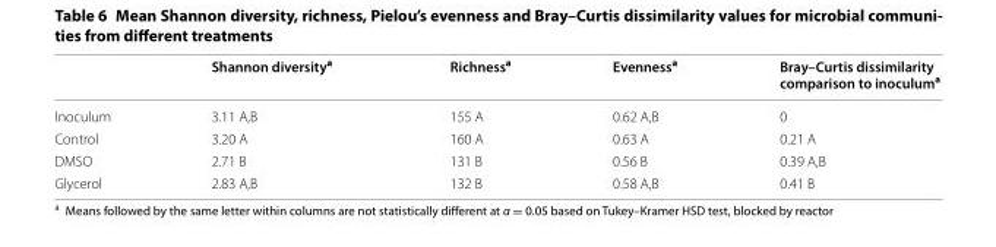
<table><thead><tr><td></td><td>Shannon diversity<sup>a</sup></td><td>Richness<sup>a</sup></td><td>Evenness<sup>a</sup></td><td>Bray–Curtis dissimilarity comparison to inoculum<sup>a</sup></td></tr></thead><tbody><tr><td>Inoculum</td><td>3.11 A,B</td><td>155 A</td><td>0.62 A,B</td><td>0</td></tr><tr><td>Control</td><td>3.20 A</td><td>160 A</td><td>0.63 A</td><td>0.21 A</td></tr><tr><td>DMSO</td><td>2.71 B</td><td>131 B</td><td>0.56 B</td><td>0.39 A,B</td></tr><tr><td>Glycerol</td><td>2.83 A,B</td><td>132 B</td><td>0.58 A,B</td><td>0.41 B</td></tr></tbody></table>